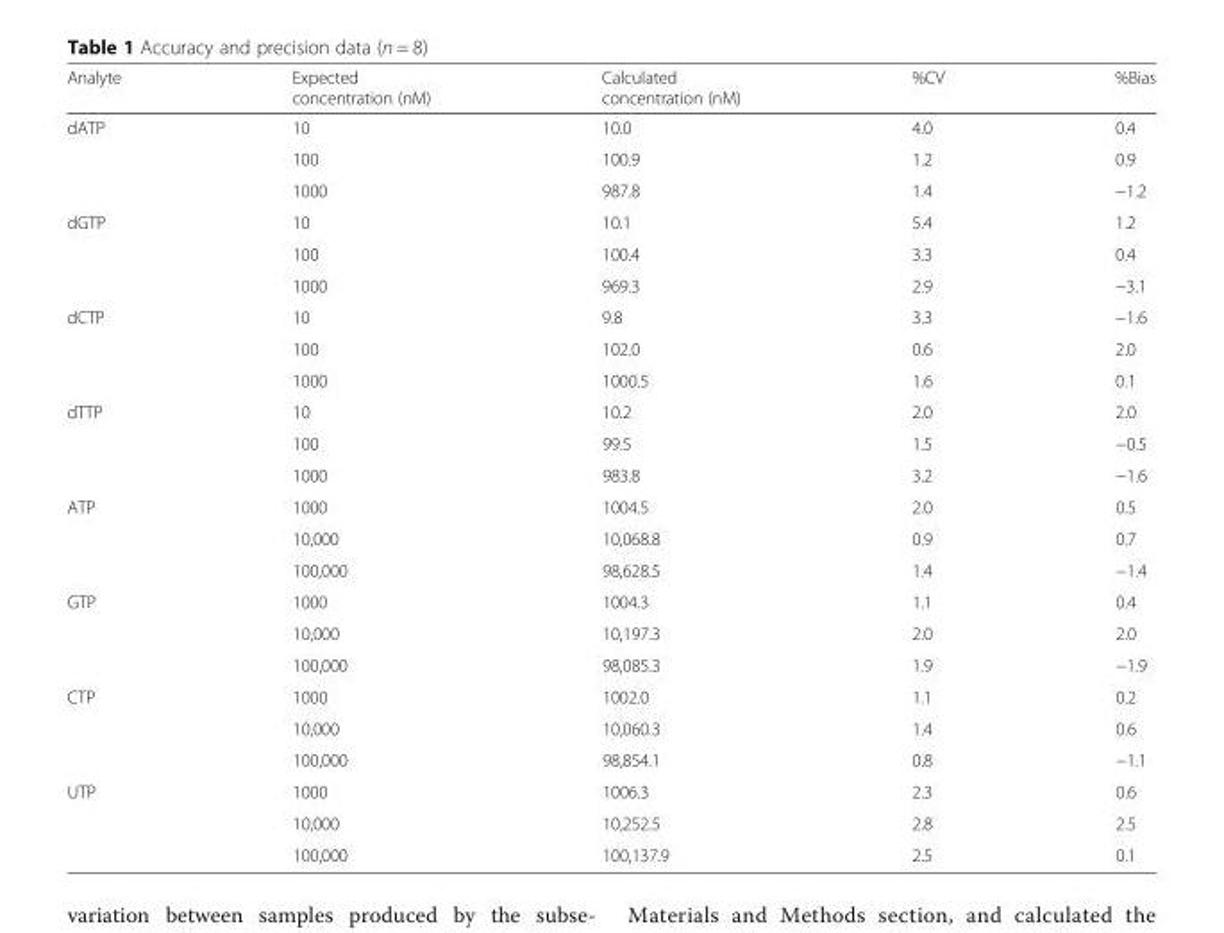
<table><thead><tr><td>Analyte</td><td>Expected concentration (nM)</td><td>Calculated concentration (nM)</td><td>%CV</td><td>%Bias</td></tr></thead><tbody><tr><td rowspan="3">dATP</td><td>10</td><td>10.0</td><td>4.0</td><td>0.4</td></tr><tr><td>100</td><td>100.9</td><td>1.2</td><td>0.9</td></tr><tr><td>1000</td><td>987.8</td><td>1.4</td><td>−1.2</td></tr><tr><td rowspan="3">dGTP</td><td>10</td><td>10.1</td><td>5.4</td><td>1.2</td></tr><tr><td>100</td><td>100.4</td><td>3.3</td><td>0.4</td></tr><tr><td>1000</td><td>969.3</td><td>2.9</td><td>−3.1</td></tr><tr><td rowspan="3">dCTP</td><td>10</td><td>9.8</td><td>3.3</td><td>−1.6</td></tr><tr><td>100</td><td>102.0</td><td>0.6</td><td>2.0</td></tr><tr><td>1000</td><td>1000.5</td><td>1.6</td><td>0.1</td></tr><tr><td rowspan="3">dTTP</td><td>10</td><td>10.2</td><td>2.0</td><td>2.0</td></tr><tr><td>100</td><td>99.5</td><td>1.5</td><td>−0.5</td></tr><tr><td>1000</td><td>983.8</td><td>3.2</td><td>−1.6</td></tr><tr><td rowspan="3">ATP</td><td>1000</td><td>1004.5</td><td>2.0</td><td>0.5</td></tr><tr><td>10,000</td><td>10,068.8</td><td>0.9</td><td>0.7</td></tr><tr><td>100,000</td><td>98,628.5</td><td>1.4</td><td>−1.4</td></tr><tr><td rowspan="3">GTP</td><td>1000</td><td>1004.3</td><td>1.1</td><td>0.4</td></tr><tr><td>10,000</td><td>10,197.3</td><td>2.0</td><td>2.0</td></tr><tr><td>100,000</td><td>98,085.3</td><td>1.9</td><td>−1.9</td></tr><tr><td rowspan="3">CTP</td><td>1000</td><td>1002.0</td><td>1.1</td><td>0.2</td></tr><tr><td>10,000</td><td>10,060.3</td><td>1.4</td><td>0.6</td></tr><tr><td>100,000</td><td>98,854.1</td><td>0.8</td><td>−1.1</td></tr><tr><td rowspan="3">UTP</td><td>1000</td><td>1006.3</td><td>2.3</td><td>0.6</td></tr><tr><td>10,000</td><td>10,252.5</td><td>2.8</td><td>2.5</td></tr><tr><td>100,000</td><td>100,137.9</td><td>2.5</td><td>0.1</td></tr></tbody></table>